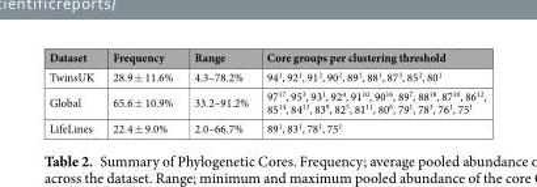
<table><thead><tr><td>Dataset</td><td>Frequency</td><td>Range</td><td>Core groups per clustering threshold</td></tr></thead><tbody><tr><td>TwinsUK</td><td>28.9 ± 11.6%</td><td>4.3–78.2%</td><td>94<sup>1</sup>, 92<sup>1</sup>, 91<sup>2</sup>, 90<sup>2</sup>, 89<sup>1</sup>, 88<sup>1</sup>, 87<sup>3</sup>, 85<sup>2</sup>, 80<sup>1</sup></td></tr><tr><td>Global</td><td>65.6 ± 10.9%</td><td>33.2–91.2%</td><td>97<sup>17</sup>, 95<sup>3</sup>, 93<sup>1</sup>, 92<sup>4</sup>, 91<sup>10</sup>, 90<sup>16</sup>, 89<sup>7</sup>, 88<sup>18</sup>, 87<sup>10</sup>, 86<sup>12</sup>, 85<sup>14</sup>, 84<sup>13</sup>, 83<sup>9</sup>, 82<sup>5</sup>, 81<sup>11</sup>, 80<sup>6</sup>, 79<sup>1</sup>, 78<sup>3</sup>, 76<sup>1</sup>, 75<sup>1</sup></td></tr><tr><td>LifeLines</td><td>22.4 ± 9.0%</td><td>2.0–66.7%</td><td>89<sup>1</sup>, 83<sup>1</sup>, 78<sup>1</sup>, 75<sup>1</sup></td></tr></tbody></table>